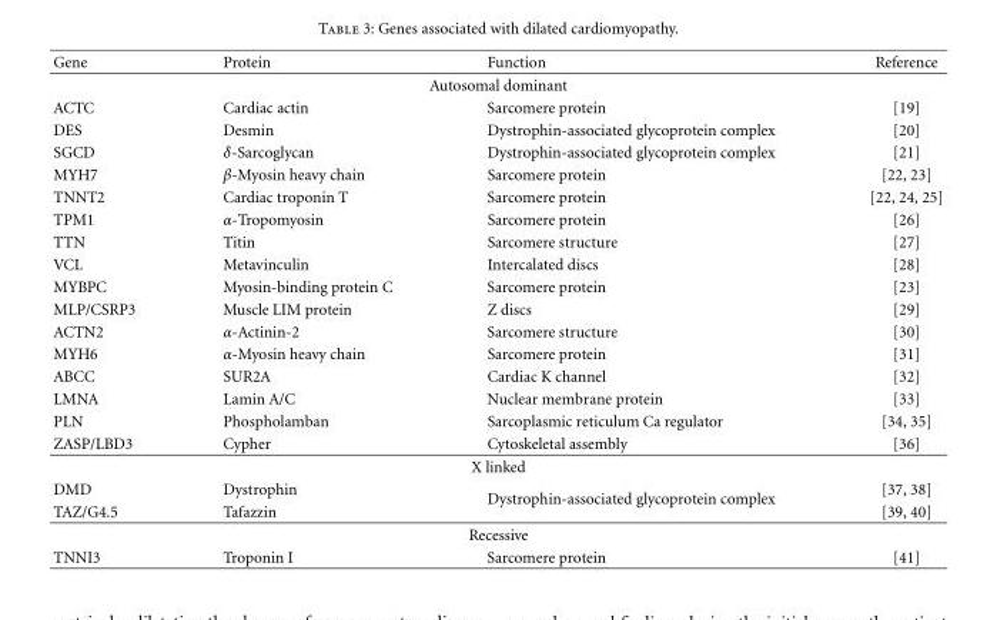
<table><thead><tr><td>Gene</td><td>Protein</td><td>Function</td><td>Reference</td></tr></thead><tbody><tr><td colspan="4">Autosomal dominant</td></tr><tr><td>ACTC</td><td>Cardiac actin</td><td>Sarcomere protein</td><td>[19]</td></tr><tr><td>DES</td><td>Desmin</td><td>Dystrophin-associated glycoprotein complex</td><td>[20]</td></tr><tr><td>SGCD</td><td>δ-Sarcoglycan</td><td>Dystrophin-associated glycoprotein complex</td><td>[21]</td></tr><tr><td>MYH7</td><td>β-Myosin heavy chain</td><td>Sarcomere protein</td><td>[22, 23]</td></tr><tr><td>TNNT2</td><td>Cardiac troponin T</td><td>Sarcomere protein</td><td>[22, 24, 25]</td></tr><tr><td>TPM1</td><td>α-Tropomyosin</td><td>Sarcomere protein</td><td>[26]</td></tr><tr><td>TTN</td><td>Titin</td><td>Sarcomere structure</td><td>[27]</td></tr><tr><td>VCL</td><td>Metavinculin</td><td>Intercalated discs</td><td>[28]</td></tr><tr><td>MYBPC</td><td>Myosin-binding protein C</td><td>Sarcomere protein</td><td>[23]</td></tr><tr><td>MLP/CSRP3</td><td>Muscle LIM protein</td><td>Z discs</td><td>[29]</td></tr><tr><td>ACTN2</td><td>α-Actinin-2</td><td>Sarcomere structure</td><td>[30]</td></tr><tr><td>MYH6</td><td>α-Myosin heavy chain</td><td>Sarcomere protein</td><td>[31]</td></tr><tr><td>ABCC</td><td>SUR2A</td><td>Cardiac K channel</td><td>[32]</td></tr><tr><td>LMNA</td><td>Lamin A/C</td><td>Nuclear membrane protein</td><td>[33]</td></tr><tr><td>PLN</td><td>Phospholamban</td><td>Sarcoplasmic reticulum Ca regulator</td><td>[34, 35]</td></tr><tr><td>ZASP/LBD3</td><td>Cypher</td><td>Cytoskeletal assembly</td><td>[36]</td></tr><tr><td colspan="4">X linked</td></tr><tr><td>DMD</td><td>Dystrophin</td><td rowspan="2">Dystrophin-associated glycoprotein complex</td><td>[37, 38]</td></tr><tr><td>TAZ/G4.5</td><td>Tafazzin</td><td>[39, 40]</td></tr><tr><td colspan="4">Recessive</td></tr><tr><td>TNNI3</td><td>Troponin I</td><td>Sarcomere protein</td><td>[41]</td></tr></tbody></table>